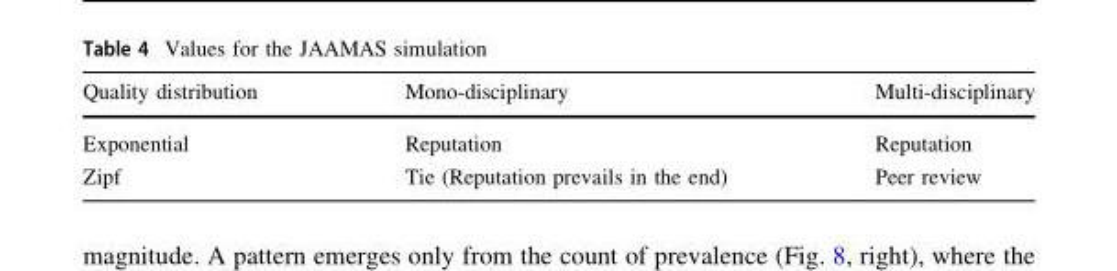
<table><thead><tr><td>Quality distribution</td><td>Mono-disciplinary</td><td>Multi-disciplinary</td></tr></thead><tbody><tr><td>Exponential</td><td>Reputation</td><td>Reputation</td></tr><tr><td>Zipf</td><td>Tie (Reputation prevails in the end)</td><td>Peer review</td></tr></tbody></table>